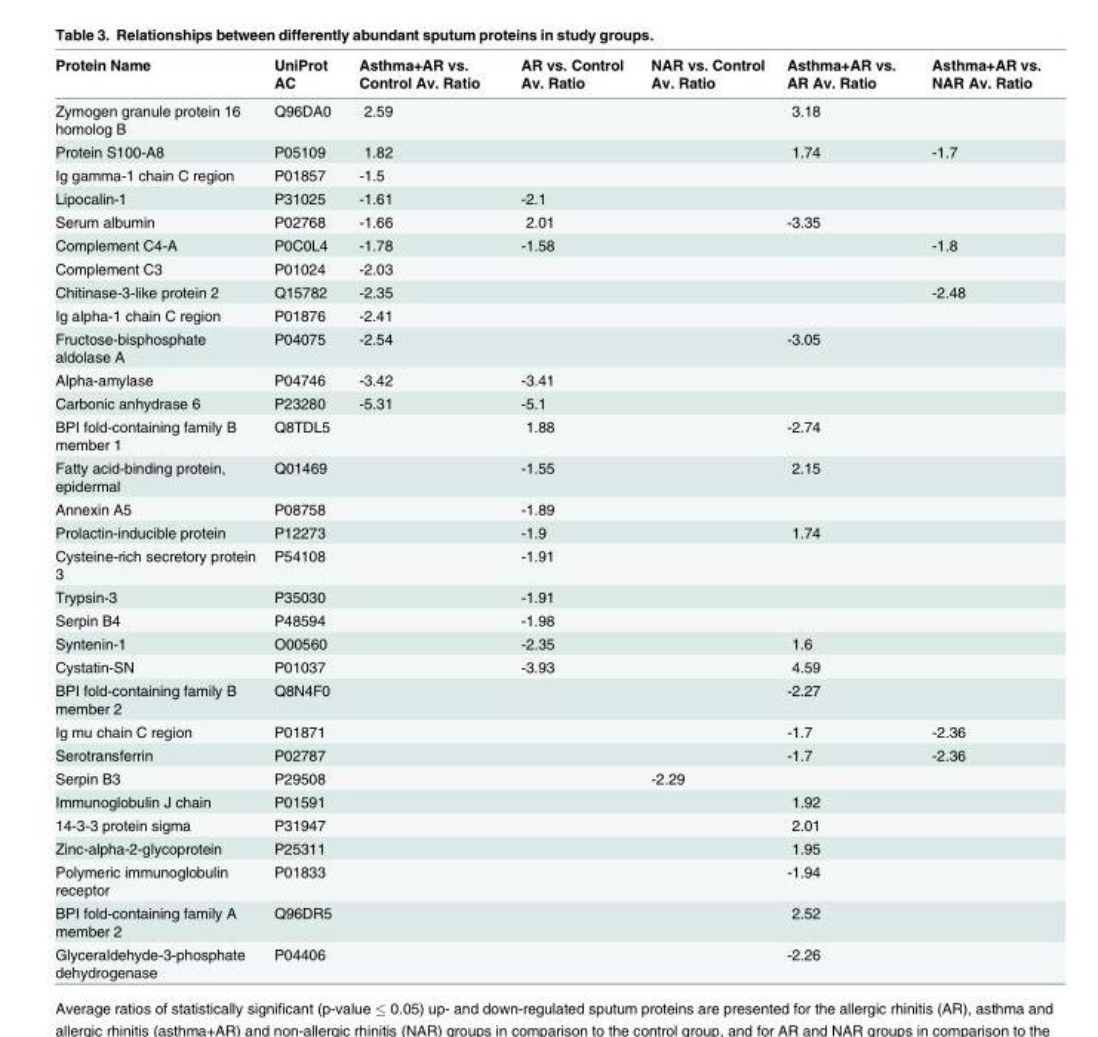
<table><thead><tr><td>Protein Name</td><td>UniProt AC</td><td>Asthma+AR vs. Control Av. Ratio</td><td>AR vs. Control Av. Ratio</td><td>NAR vs. Control Av. Ratio</td><td>Asthma+AR vs. AR Av. Ratio</td><td>Asthma+AR vs. NAR Av. Ratio</td></tr></thead><tbody><tr><td>Zymogen granule protein 16 homolog B</td><td>Q96DA0</td><td>2.59</td><td></td><td></td><td>3.18</td><td></td></tr><tr><td>Protein S100-A8</td><td>P05109</td><td>1.82</td><td></td><td></td><td>1.74</td><td>-1.7</td></tr><tr><td>Ig gamma-1 chain C region</td><td>P01857</td><td>-1.5</td><td></td><td></td><td></td><td></td></tr><tr><td>Lipocalin-1</td><td>P31025</td><td>-1.61</td><td>-2.1</td><td></td><td></td><td></td></tr><tr><td>Serum albumin</td><td>P02768</td><td>-1.66</td><td>2.01</td><td></td><td>-3.35</td><td></td></tr><tr><td>Complement C4-A</td><td>P0C0L4</td><td>-1.78</td><td>-1.58</td><td></td><td></td><td>-1.8</td></tr><tr><td>Complement C3</td><td>P01024</td><td>-2.03</td><td></td><td></td><td></td><td></td></tr><tr><td>Chitinase-3-like protein 2</td><td>Q15782</td><td>-2.35</td><td></td><td></td><td></td><td>-2.48</td></tr><tr><td>Ig alpha-1 chain C region</td><td>P01876</td><td>-2.41</td><td></td><td></td><td></td><td></td></tr><tr><td>Fructose-bisphosphate aldolase A</td><td>P04075</td><td>-2.54</td><td></td><td></td><td>-3.05</td><td></td></tr><tr><td>Alpha-amylase</td><td>P04746</td><td>-3.42</td><td>-3.41</td><td></td><td></td><td></td></tr><tr><td>Carbonic anhydrase 6</td><td>P23280</td><td>-5.31</td><td>-5.1</td><td></td><td></td><td></td></tr><tr><td>BPI fold-containing family B member 1</td><td>Q8TDL5</td><td></td><td>1.88</td><td></td><td>-2.74</td><td></td></tr><tr><td>Fatty acid-binding protein, epidermal</td><td>Q01469</td><td></td><td>-1.55</td><td></td><td>2.15</td><td></td></tr><tr><td>Annexin A5</td><td>P08758</td><td></td><td>-1.89</td><td></td><td></td><td></td></tr><tr><td>Prolactin-inducible protein</td><td>P12273</td><td></td><td>-1.9</td><td></td><td>1.74</td><td></td></tr><tr><td>Cysteine-rich secretory protein 3</td><td>P54108</td><td></td><td>-1.91</td><td></td><td></td><td></td></tr><tr><td>Trypsin-3</td><td>P35030</td><td></td><td>-1.91</td><td></td><td></td><td></td></tr><tr><td>Serpin B4</td><td>P48594</td><td></td><td>-1.98</td><td></td><td></td><td></td></tr><tr><td>Syntenin-1</td><td>O00560</td><td></td><td>-2.35</td><td></td><td>1.6</td><td></td></tr><tr><td>Cystatin-SN</td><td>P01037</td><td></td><td>-3.93</td><td></td><td>4.59</td><td></td></tr><tr><td>BPI fold-containing family B member 2</td><td>Q8N4F0</td><td></td><td></td><td></td><td>-2.27</td><td></td></tr><tr><td>Ig mu chain C region</td><td>P01871</td><td></td><td></td><td></td><td>-1.7</td><td>-2.36</td></tr><tr><td>Serotransferrin</td><td>P02787</td><td></td><td></td><td></td><td>-1.7</td><td>-2.36</td></tr><tr><td>Serpin B3</td><td>P29508</td><td></td><td></td><td>-2.29</td><td></td><td></td></tr><tr><td>Immunoglobulin J chain</td><td>P01591</td><td></td><td></td><td></td><td>1.92</td><td></td></tr><tr><td>14-3-3 protein sigma</td><td>P31947</td><td></td><td></td><td></td><td>2.01</td><td></td></tr><tr><td>Zinc-alpha-2-glycoprotein</td><td>P25311</td><td></td><td></td><td></td><td>1.95</td><td></td></tr><tr><td>Polymeric immunoglobulin receptor</td><td>P01833</td><td></td><td></td><td></td><td>-1.94</td><td></td></tr><tr><td>BPI fold-containing family A member 2</td><td>Q96DR5</td><td></td><td></td><td></td><td>2.52</td><td></td></tr><tr><td>Glyceraldehyde-3-phosphate dehydrogenase</td><td>P04406</td><td></td><td></td><td></td><td>-2.26</td><td></td></tr></tbody></table>